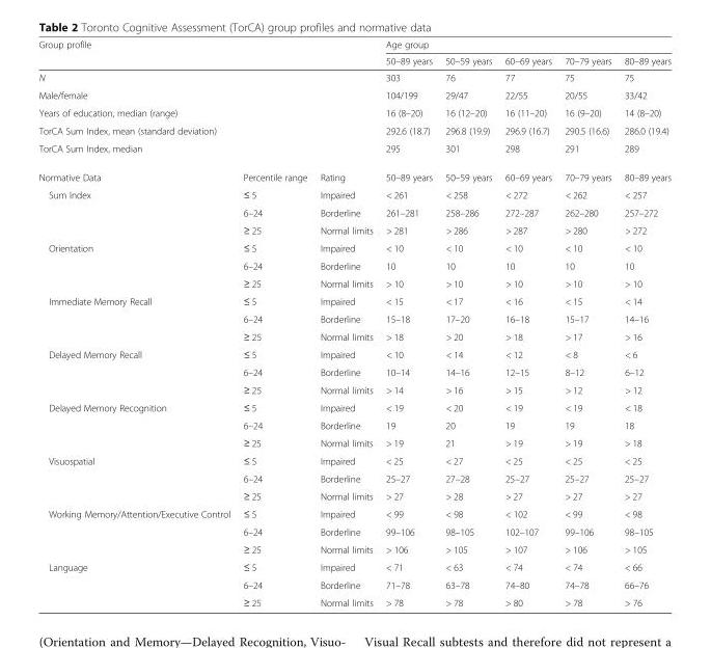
<table><thead><tr><td rowspan="2" colspan="3">Group profile</td><td colspan="5">Age group</td></tr><tr><td>50–89 years</td><td>50–59 years</td><td>60–69 years</td><td>70–79 years</td><td>80–89 years</td></tr></thead><tbody><tr><td colspan="3">N</td><td>303</td><td>76</td><td>77</td><td>75</td><td>75</td></tr><tr><td colspan="3">Male/female</td><td>104/199</td><td>29/47</td><td>22/55</td><td>20/55</td><td>33/42</td></tr><tr><td colspan="3">Years of education, median (range)</td><td>16 (8–20)</td><td>16 (12–20)</td><td>16 (11–20)</td><td>16 (9–20)</td><td>14 (8–20)</td></tr><tr><td colspan="3">TorCA Sum Index, mean (standard deviation)</td><td>292.6 (18.7)</td><td>296.8 (19.9)</td><td>296.9 (16.7)</td><td>290.5 (16.6)</td><td>286.0 (19.4)</td></tr><tr><td colspan="3">TorCA Sum Index, median</td><td>295</td><td>301</td><td>298</td><td>291</td><td>289</td></tr><tr><td>Normative Data</td><td>Percentile range</td><td>Rating</td><td>50–89 years</td><td>50–59 years</td><td>60–69 years</td><td>70–79 years</td><td>80–89 years</td></tr><tr><td rowspan="3">Sum Index</td><td>≤ 5</td><td>Impaired</td><td>&lt; 261</td><td>&lt; 258</td><td>&lt; 272</td><td>&lt; 262</td><td>&lt; 257</td></tr><tr><td>6–24</td><td>Borderline</td><td>261–281</td><td>258–286</td><td>272–287</td><td>262–280</td><td>257–272</td></tr><tr><td>≥ 25</td><td>Normal limits</td><td>&gt; 281</td><td>&gt; 286</td><td>&gt; 287</td><td>&gt; 280</td><td>&gt; 272</td></tr><tr><td rowspan="3">Orientation</td><td>≤ 5</td><td>Impaired</td><td>&lt; 10</td><td>&lt; 10</td><td>&lt; 10</td><td>&lt; 10</td><td>&lt; 10</td></tr><tr><td>6–24</td><td>Borderline</td><td>10</td><td>10</td><td>10</td><td>10</td><td>10</td></tr><tr><td>≥ 25</td><td>Normal limits</td><td>&gt; 10</td><td>&gt; 10</td><td>&gt; 10</td><td>&gt; 10</td><td>&gt; 10</td></tr><tr><td rowspan="3">Immediate Memory Recall</td><td>≤ 5</td><td>Impaired</td><td>&lt; 15</td><td>&lt; 17</td><td>&lt; 16</td><td>&lt; 15</td><td>&lt; 14</td></tr><tr><td>6–24</td><td>Borderline</td><td>15–18</td><td>17–20</td><td>16–18</td><td>15–17</td><td>14–16</td></tr><tr><td>≥ 25</td><td>Normal limits</td><td>&gt; 18</td><td>&gt; 20</td><td>&gt; 18</td><td>&gt; 17</td><td>&gt; 16</td></tr><tr><td rowspan="3">Delayed Memory Recall</td><td>≤ 5</td><td>Impaired</td><td>&lt; 10</td><td>&lt; 14</td><td>&lt; 12</td><td>&lt; 8</td><td>&lt; 6</td></tr><tr><td>6–24</td><td>Borderline</td><td>10–14</td><td>14–16</td><td>12–15</td><td>8–12</td><td>6–12</td></tr><tr><td>≥ 25</td><td>Normal limits</td><td>&gt; 14</td><td>&gt; 16</td><td>&gt; 15</td><td>&gt; 12</td><td>&gt; 12</td></tr><tr><td rowspan="3">Delayed Memory Recognition</td><td>≤ 5</td><td>Impaired</td><td>&lt; 19</td><td>&lt; 20</td><td>&lt; 19</td><td>&lt; 19</td><td>&lt; 18</td></tr><tr><td>6–24</td><td>Borderline</td><td>19</td><td>20</td><td>19</td><td>19</td><td>18</td></tr><tr><td>≥ 25</td><td>Normal limits</td><td>&gt; 19</td><td>21</td><td>&gt; 19</td><td>&gt; 19</td><td>&gt; 18</td></tr><tr><td rowspan="3">Visuospatial</td><td>≤ 5</td><td>Impaired</td><td>&lt; 25</td><td>&lt; 27</td><td>&lt; 25</td><td>&lt; 25</td><td>&lt; 25</td></tr><tr><td>6–24</td><td>Borderline</td><td>25–27</td><td>27–28</td><td>25–27</td><td>25–27</td><td>25–27</td></tr><tr><td>≥ 25</td><td>Normal limits</td><td>&gt; 27</td><td>&gt; 28</td><td>&gt; 27</td><td>&gt; 27</td><td>&gt; 27</td></tr><tr><td rowspan="3">Working Memory/Attention/Executive Control</td><td>≤ 5</td><td>Impaired</td><td>&lt; 99</td><td>&lt; 98</td><td>&lt; 102</td><td>&lt; 99</td><td>&lt; 98</td></tr><tr><td>6–24</td><td>Borderline</td><td>99–106</td><td>98–105</td><td>102–107</td><td>99–106</td><td>98–105</td></tr><tr><td>≥ 25</td><td>Normal limits</td><td>&gt; 106</td><td>&gt; 105</td><td>&gt; 107</td><td>&gt; 106</td><td>&gt; 105</td></tr><tr><td rowspan="3">Language</td><td>≤ 5</td><td>Impaired</td><td>&lt; 71</td><td>&lt; 63</td><td>&lt; 74</td><td>&lt; 74</td><td>&lt; 66</td></tr><tr><td>6–24</td><td>Borderline</td><td>71–78</td><td>63–78</td><td>74–80</td><td>74–78</td><td>66–76</td></tr><tr><td>≥ 25</td><td>Normal limits</td><td>&gt; 78</td><td>&gt; 78</td><td>&gt; 80</td><td>&gt; 78</td><td>&gt; 76</td></tr></tbody></table>